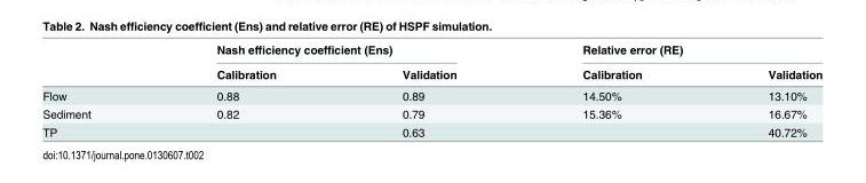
<table><thead><tr><td rowspan="2"></td><td colspan="2">Nash efficiency coefficient (Ens)</td><td colspan="2">Relative error (RE)</td></tr><tr><td>Calibration</td><td>Validation</td><td>Calibration</td><td>Validation</td></tr></thead><tbody><tr><td>Flow</td><td>0.88</td><td>0.89</td><td>14.50%</td><td>13.10%</td></tr><tr><td>Sediment</td><td>0.82</td><td>0.79</td><td>15.36%</td><td>16.67%</td></tr><tr><td>TP</td><td></td><td>0.63</td><td></td><td>40.72%</td></tr></tbody></table>